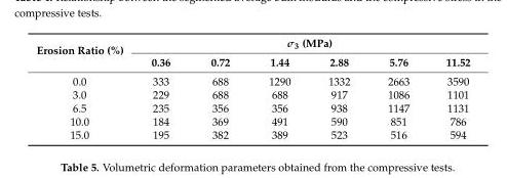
<table><thead><tr><td rowspan="2">Erosion Ratio (%)</td><td colspan="6">σ<sub>3</sub> (MPa)</td></tr><tr><td>0.36</td><td>0.72</td><td>1.44</td><td>2.88</td><td>5.76</td><td>11.52</td></tr></thead><tbody><tr><td>0.0</td><td>333</td><td>688</td><td>1290</td><td>1332</td><td>2663</td><td>3590</td></tr><tr><td>3.0</td><td>229</td><td>688</td><td>688</td><td>917</td><td>1086</td><td>1101</td></tr><tr><td>6.5</td><td>235</td><td>356</td><td>356</td><td>938</td><td>1147</td><td>1131</td></tr><tr><td>10.0</td><td>184</td><td>369</td><td>491</td><td>590</td><td>851</td><td>786</td></tr><tr><td>15.0</td><td>195</td><td>382</td><td>389</td><td>523</td><td>516</td><td>594</td></tr></tbody></table>